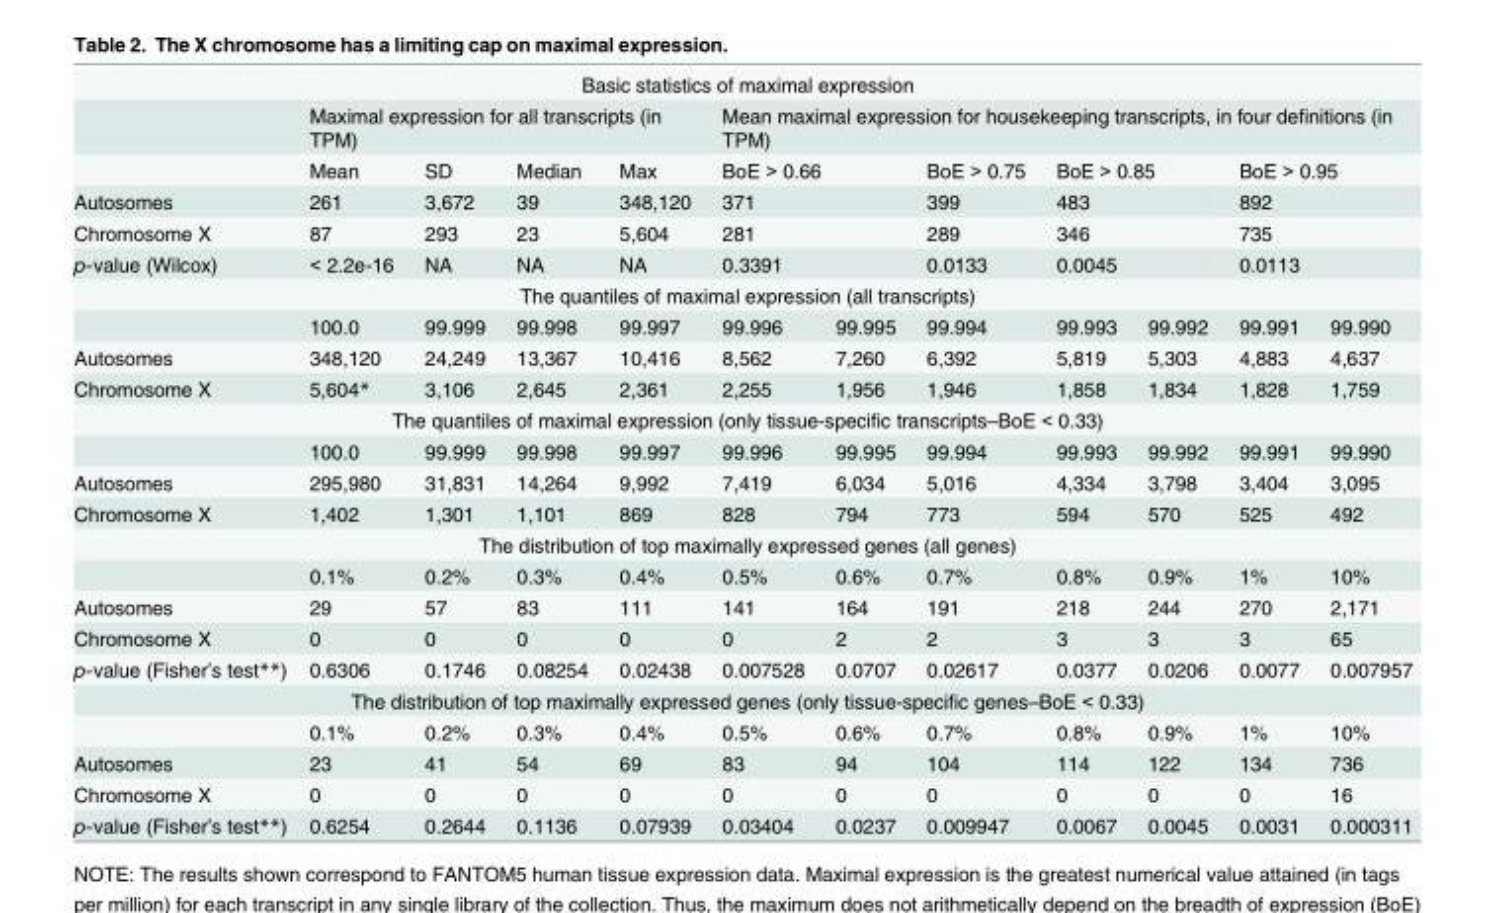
<table><tbody><tr><td colspan="12">Basic statistics of maximal expression</td></tr><tr><td></td><td colspan="4">Maximal expression for all transcripts (in TPM)</td><td colspan="7">Mean maximal expression for housekeeping transcripts, in four definitions (in TPM)</td></tr><tr><td></td><td>Mean</td><td>SD</td><td>Median</td><td>Max</td><td colspan="2">BoE &gt; 0.66</td><td>BoE &gt; 0.75</td><td colspan="2">BoE &gt; 0.85</td><td colspan="2">BoE &gt; 0.95</td></tr><tr><td>Autosomes</td><td>261</td><td>3,672</td><td>39</td><td>348,120</td><td colspan="2">371</td><td>399</td><td colspan="2">483</td><td colspan="2">892</td></tr><tr><td>Chromosome X</td><td>87</td><td>293</td><td>23</td><td>5,604</td><td colspan="2">281</td><td>289</td><td colspan="2">346</td><td colspan="2">735</td></tr><tr><td>p-value (Wilcox)</td><td>&lt; 2.2e-16</td><td>NA</td><td>NA</td><td>NA</td><td colspan="2">0.3391</td><td>0.0133</td><td colspan="2">0.0045</td><td colspan="2">0.0113</td></tr><tr><td colspan="12">The quantiles of maximal expression (all transcripts)</td></tr><tr><td></td><td>100.0</td><td>99.999</td><td>99.998</td><td>99.997</td><td>99.996</td><td>99.995</td><td>99.994</td><td>99.993</td><td>99.992</td><td>99.991</td><td>99.990</td></tr><tr><td>Autosomes</td><td>348,120</td><td>24,249</td><td>13,367</td><td>10,416</td><td>8,562</td><td>7,260</td><td>6,392</td><td>5,819</td><td>5,303</td><td>4,883</td><td>4,637</td></tr><tr><td>Chromosome X</td><td>5,604*</td><td>3,106</td><td>2,645</td><td>2,361</td><td>2,255</td><td>1,956</td><td>1,946</td><td>1,858</td><td>1,834</td><td>1,828</td><td>1,759</td></tr><tr><td colspan="12">The quantiles of maximal expression (only tissue-specific transcripts–BoE &lt; 0.33)</td></tr><tr><td></td><td>100.0</td><td>99.999</td><td>99.998</td><td>99.997</td><td>99.996</td><td>99.995</td><td>99.994</td><td>99.993</td><td>99.992</td><td>99.991</td><td>99.990</td></tr><tr><td>Autosomes</td><td>295,980</td><td>31,831</td><td>14,264</td><td>9,992</td><td>7,419</td><td>6,034</td><td>5,016</td><td>4,334</td><td>3,798</td><td>3,404</td><td>3,095</td></tr><tr><td>Chromosome X</td><td>1,402</td><td>1,301</td><td>1,101</td><td>869</td><td>828</td><td>794</td><td>773</td><td>594</td><td>570</td><td>525</td><td>492</td></tr><tr><td colspan="12">The distribution of top maximally expressed genes (all genes)</td></tr><tr><td></td><td>0.1%</td><td>0.2%</td><td>0.3%</td><td>0.4%</td><td>0.5%</td><td>0.6%</td><td>0.7%</td><td>0.8%</td><td>0.9%</td><td>1%</td><td>10%</td></tr><tr><td>Autosomes</td><td>29</td><td>57</td><td>83</td><td>111</td><td>141</td><td>164</td><td>191</td><td>218</td><td>244</td><td>270</td><td>2,171</td></tr><tr><td>Chromosome X</td><td>0</td><td>0</td><td>0</td><td>0</td><td>0</td><td>2</td><td>2</td><td>3</td><td>3</td><td>3</td><td>65</td></tr><tr><td>p-value (Fisher’s test**)</td><td>0.6306</td><td>0.1746</td><td>0.08254</td><td>0.02438</td><td>0.007528</td><td>0.0707</td><td>0.02617</td><td>0.0377</td><td>0.0206</td><td>0.0077</td><td>0.007957</td></tr><tr><td colspan="12">The distribution of top maximally expressed genes (only tissue-specific genes–BoE &lt; 0.33)</td></tr><tr><td></td><td>0.1%</td><td>0.2%</td><td>0.3%</td><td>0.4%</td><td>0.5%</td><td>0.6%</td><td>0.7%</td><td>0.8%</td><td>0.9%</td><td>1%</td><td>10%</td></tr><tr><td>Autosomes</td><td>23</td><td>41</td><td>54</td><td>69</td><td>83</td><td>94</td><td>104</td><td>114</td><td>122</td><td>134</td><td>736</td></tr><tr><td>Chromosome X</td><td>0</td><td>0</td><td>0</td><td>0</td><td>0</td><td>0</td><td>0</td><td>0</td><td>0</td><td>0</td><td>16</td></tr><tr><td>p-value (Fisher’s test**)</td><td>0.6254</td><td>0.2644</td><td>0.1136</td><td>0.07939</td><td>0.03404</td><td>0.0237</td><td>0.009947</td><td>0.0067</td><td>0.0045</td><td>0.0031</td><td>0.000311</td></tr></tbody></table>